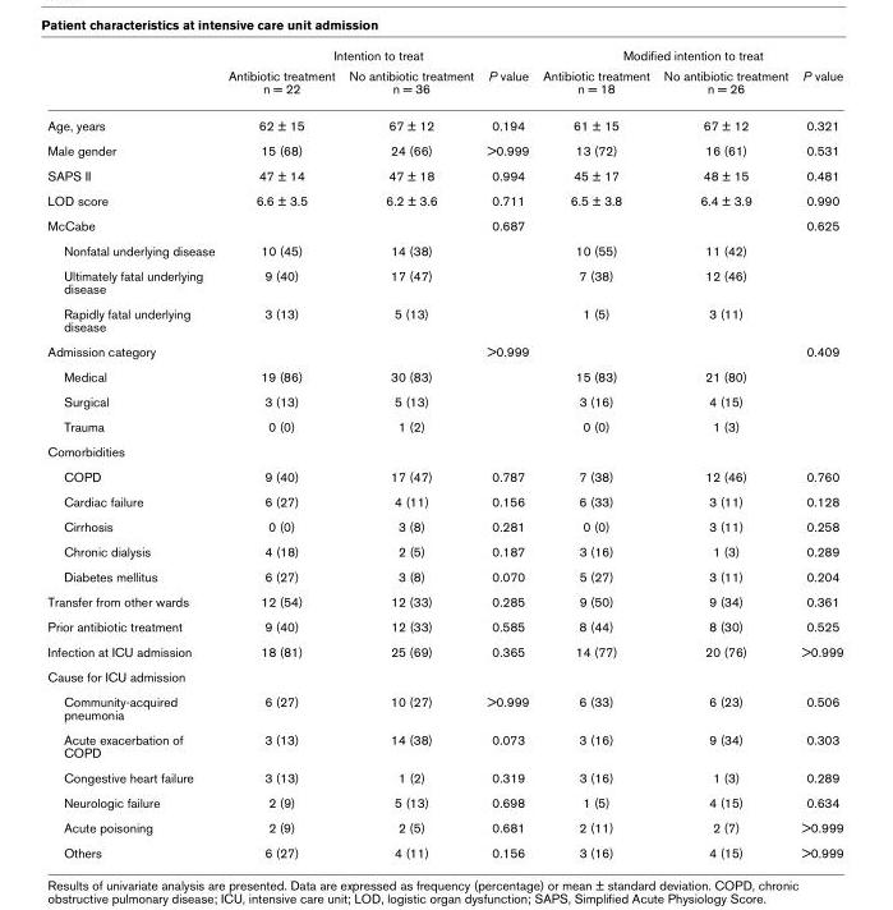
<table><thead><tr><td rowspan="2"></td><td colspan="3">Intention to treat</td><td colspan="3">Modified intention to treat</td></tr><tr><td>Antibiotic treatment n = 22</td><td>No antibiotic treatment n = 36</td><td>P value</td><td>Antibiotic treatment n = 18</td><td>No antibiotic treatment n = 26</td><td>P value</td></tr></thead><tbody><tr><td>Age, years</td><td>62 ± 15</td><td>67 ± 12</td><td>0.194</td><td>61 ± 15</td><td>67 ± 12</td><td>0.321</td></tr><tr><td>Male gender</td><td>15 (68)</td><td>24 (66)</td><td>&gt;0.999</td><td>13 (72)</td><td>16 (61)</td><td>0.531</td></tr><tr><td>SAPS II</td><td>47 ± 14</td><td>47 ± 18</td><td>0.994</td><td>45 ± 17</td><td>48 ± 15</td><td>0.481</td></tr><tr><td>LOD score</td><td>6.6 ± 3.5</td><td>6.2 ± 3.6</td><td>0.711</td><td>6.5 ± 3.8</td><td>6.4 ± 3.9</td><td>0.990</td></tr><tr><td>McCabe</td><td></td><td></td><td>0.687</td><td></td><td></td><td>0.625</td></tr><tr><td>Nonfatal underlying disease</td><td>10 (45)</td><td>14 (38)</td><td></td><td>10 (55)</td><td>11 (42)</td><td></td></tr><tr><td>Ultimately fatal underlying disease</td><td>9 (40)</td><td>17 (47)</td><td></td><td>7 (38)</td><td>12 (46)</td><td></td></tr><tr><td>Rapidly fatal underlying disease</td><td>3 (13)</td><td>5 (13)</td><td></td><td>1 (5)</td><td>3 (11)</td><td></td></tr><tr><td>Admission category</td><td></td><td></td><td>&gt;0.999</td><td></td><td></td><td>0.409</td></tr><tr><td>Medical</td><td>19 (86)</td><td>30 (83)</td><td></td><td>15 (83)</td><td>21 (80)</td><td></td></tr><tr><td>Surgical</td><td>3 (13)</td><td>5 (13)</td><td></td><td>3 (16)</td><td>4 (15)</td><td></td></tr><tr><td>Trauma</td><td>0 (0)</td><td>1 (2)</td><td></td><td>0 (0)</td><td>1 (3)</td><td></td></tr><tr><td colspan="7">Comorbidities</td></tr><tr><td>COPD</td><td>9 (40)</td><td>17 (47)</td><td>0.787</td><td>7 (38)</td><td>12 (46)</td><td>0.760</td></tr><tr><td>Cardiac failure</td><td>6 (27)</td><td>4 (11)</td><td>0.156</td><td>6 (33)</td><td>3 (11)</td><td>0.128</td></tr><tr><td>Cirrhosis</td><td>0 (0)</td><td>3 (8)</td><td>0.281</td><td>0 (0)</td><td>3 (11)</td><td>0.258</td></tr><tr><td>Chronic dialysis</td><td>4 (18)</td><td>2 (5)</td><td>0.187</td><td>3 (16)</td><td>1 (3)</td><td>0.289</td></tr><tr><td>Diabetes mellitus</td><td>6 (27)</td><td>3 (8)</td><td>0.070</td><td>5 (27)</td><td>3 (11)</td><td>0.204</td></tr><tr><td>Transfer from other wards</td><td>12 (54)</td><td>12 (33)</td><td>0.285</td><td>9 (50)</td><td>9 (34)</td><td>0.361</td></tr><tr><td>Prior antibiotic treatment</td><td>9 (40)</td><td>12 (33)</td><td>0.585</td><td>8 (44)</td><td>8 (30)</td><td>0.525</td></tr><tr><td>Infection at ICU admission</td><td>18 (81)</td><td>25 (69)</td><td>0.365</td><td>14 (77)</td><td>20 (76)</td><td>&gt;0.999</td></tr><tr><td colspan="7">Cause for ICU admission</td></tr><tr><td>Community-acquired pneumonia</td><td>6 (27)</td><td>10 (27)</td><td>&gt;0.999</td><td>6 (33)</td><td>6 (23)</td><td>0.506</td></tr><tr><td>Acute exacerbation of COPD</td><td>3 (13)</td><td>14 (38)</td><td>0.073</td><td>3 (16)</td><td>9 (34)</td><td>0.303</td></tr><tr><td>Congestive heart failure</td><td>3 (13)</td><td>1 (2)</td><td>0.319</td><td>3 (16)</td><td>1 (3)</td><td>0.289</td></tr><tr><td>Neurologic failure</td><td>2 (9)</td><td>5 (13)</td><td>0.698</td><td>1 (5)</td><td>4 (15)</td><td>0.634</td></tr><tr><td>Acute poisoning</td><td>2 (9)</td><td>2 (5)</td><td>0.681</td><td>2 (11)</td><td>2 (7)</td><td>&gt;0.999</td></tr><tr><td>Others</td><td>6 (27)</td><td>4 (11)</td><td>0.156</td><td>3 (16)</td><td>4 (15)</td><td>&gt;0.999</td></tr></tbody></table>